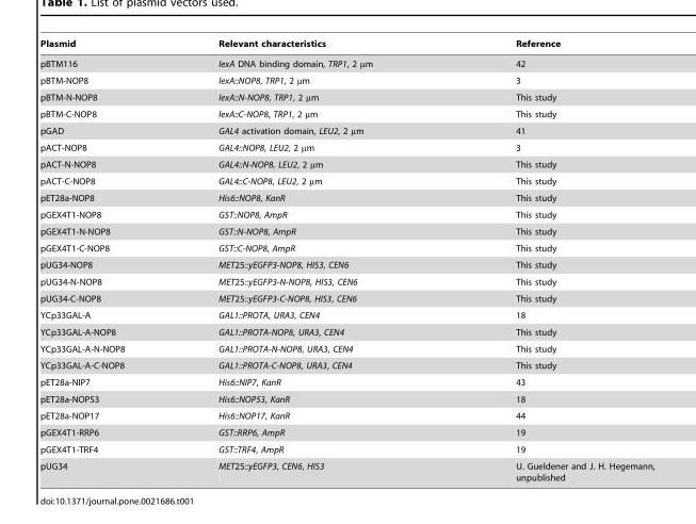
<table><thead><tr><td>Plasmid</td><td>Relevant characteristics</td><td>Reference</td></tr></thead><tbody><tr><td>pBTM116</td><td>lexA DNA binding domain, TRP1, 2 µm</td><td>42</td></tr><tr><td>pBTM-NOP8</td><td>lexA::NOP8, TRP1, 2 µm</td><td>3</td></tr><tr><td>pBTM-N-NOP8</td><td>lexA::N-NOP8, TRP1, 2 µm</td><td>This study</td></tr><tr><td>pBTM-C-NOP8</td><td>lexA::C-NOP8, TRP1, 2 µm</td><td>This study</td></tr><tr><td>pGAD</td><td>GAL4 activation domain, LEU2, 2 µm</td><td>41</td></tr><tr><td>pACT-NOP8</td><td>GAL4::NOP8, LEU2, 2 µm</td><td>3</td></tr><tr><td>pACT-N-NOP8</td><td>GAL4::N-NOP8, LEU2, 2 µm</td><td>This study</td></tr><tr><td>pACT-C-NOP8</td><td>GAL4::C-NOP8, LEU2, 2 µm</td><td>This study</td></tr><tr><td>pET28a-NOP8</td><td>His6::NOP8, KanR</td><td>This study</td></tr><tr><td>pGEX4T1-NOP8</td><td>GST::NOP8, AmpR</td><td>This study</td></tr><tr><td>pGEX4T1-N-NOP8</td><td>GST::N-NOP8, AmpR</td><td>This study</td></tr><tr><td>pGEX4T1-C-NOP8</td><td>GST::C-NOP8, AmpR</td><td>This study</td></tr><tr><td>pUG34-NOP8</td><td>MET25::yEGFP3-NOP8, HIS3, CEN6</td><td>This study</td></tr><tr><td>pUG34-N-NOP8</td><td>MET25::yEGFP3-N-NOP8, HIS3, CEN6</td><td>This study</td></tr><tr><td>pUG34-C-NOP8</td><td>MET25::yEGFP3-C-NOP8, HIS3, CEN6</td><td>This study</td></tr><tr><td>YCp33GAL-A</td><td>GAL1::PROTA, URA3, CEN4</td><td>18</td></tr><tr><td>YCp33GAL-A-NOP8</td><td>GAL1::PROTA-NOP8, URA3, CEN4</td><td>This study</td></tr><tr><td>YCp33GAL-A-N-NOP8</td><td>GAL1::PROTA-N-NOP8, URA3, CEN4</td><td>This study</td></tr><tr><td>YCp33GAL-A-C-NOP8</td><td>GAL1::PROTA-C-NOP8, URA3, CEN4</td><td>This study</td></tr><tr><td>pET28a-NIP7</td><td>His6::NIP7, KanR</td><td>43</td></tr><tr><td>pET28a-NOP53</td><td>His6::NOP53, KanR</td><td>18</td></tr><tr><td>pET28a-NOP17</td><td>His6::NOP17, KanR</td><td>44</td></tr><tr><td>pGEX4T1-RRP6</td><td>GST::RRP6, AmpR</td><td>19</td></tr><tr><td>pGEX4T1-TRF4</td><td>GST::TRF4, AmpR</td><td>19</td></tr><tr><td>pUG34</td><td>MET25::yEGFP3, CEN6, HIS3</td><td>U. Gueldener and J. H. Hegemann, unpublished</td></tr></tbody></table>